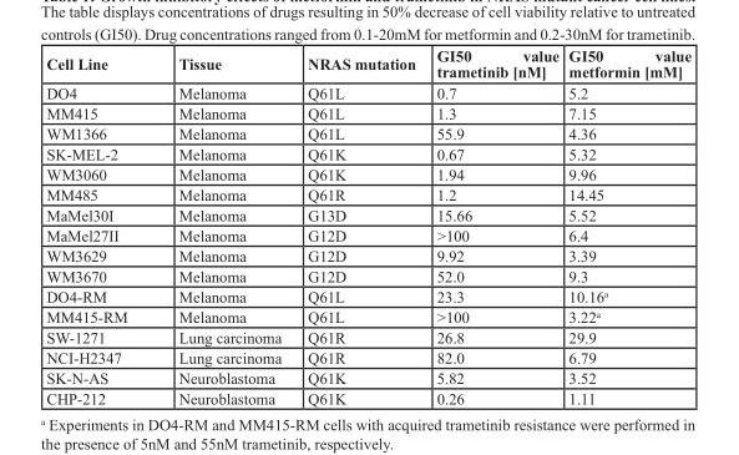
<table><thead><tr><td>Cell Line</td><td>Tissue</td><td>NRAS mutation</td><td>GI50 value trametinib [nM]</td><td>GI50 value metformin [mM]</td></tr></thead><tbody><tr><td>DO4</td><td>Melanoma</td><td>Q61L</td><td>0.7</td><td>5.2</td></tr><tr><td>MM415</td><td>Melanoma</td><td>Q61L</td><td>1.3</td><td>7.15</td></tr><tr><td>WM1366</td><td>Melanoma</td><td>Q61L</td><td>55.9</td><td>4.36</td></tr><tr><td>SK-MEL-2</td><td>Melanoma</td><td>Q61K</td><td>0.67</td><td>5.32</td></tr><tr><td>WM3060</td><td>Melanoma</td><td>Q61K</td><td>1.94</td><td>9.96</td></tr><tr><td>MM485</td><td>Melanoma</td><td>Q61R</td><td>1.2</td><td>14.45</td></tr><tr><td>MaMel30I</td><td>Melanoma</td><td>G13D</td><td>15.66</td><td>5.52</td></tr><tr><td>MaMel27II</td><td>Melanoma</td><td>G12D</td><td>&gt;100</td><td>6.4</td></tr><tr><td>WM3629</td><td>Melanoma</td><td>G12D</td><td>9.92</td><td>3.39</td></tr><tr><td>WM3670</td><td>Melanoma</td><td>G12D</td><td>52.0</td><td>9.3</td></tr><tr><td>DO4-RM</td><td>Melanoma</td><td>Q61L</td><td>23.3</td><td>10.16<sup>a</sup></td></tr><tr><td>MM415-RM</td><td>Melanoma</td><td>Q61L</td><td>&gt;100</td><td>3.22<sup>a</sup></td></tr><tr><td>SW-1271</td><td>Lung carcinoma</td><td>Q61R</td><td>26.8</td><td>29.9</td></tr><tr><td>NCI-H2347</td><td>Lung carcinoma</td><td>Q61R</td><td>82.0</td><td>6.79</td></tr><tr><td>SK-N-AS</td><td>Neuroblastoma</td><td>Q61K</td><td>5.82</td><td>3.52</td></tr><tr><td>CHP-212</td><td>Neuroblastoma</td><td>Q61K</td><td>0.26</td><td>1.11</td></tr></tbody></table>